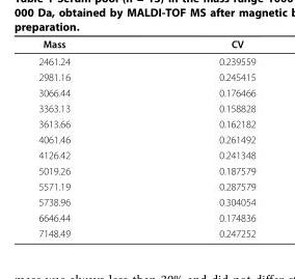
<table><thead><tr><td>Mass</td><td>CV</td></tr></thead><tbody><tr><td>2461.24</td><td>0.239559</td></tr><tr><td>2981.16</td><td>0.245415</td></tr><tr><td>3066.44</td><td>0.176466</td></tr><tr><td>3363.13</td><td>0.158828</td></tr><tr><td>3613.66</td><td>0.162182</td></tr><tr><td>4061.46</td><td>0.261492</td></tr><tr><td>4126.42</td><td>0.241348</td></tr><tr><td>5019.26</td><td>0.187579</td></tr><tr><td>5571.19</td><td>0.287579</td></tr><tr><td>5738.96</td><td>0.304054</td></tr><tr><td>6646.44</td><td>0.174836</td></tr><tr><td>7148.49</td><td>0.247252</td></tr></tbody></table>